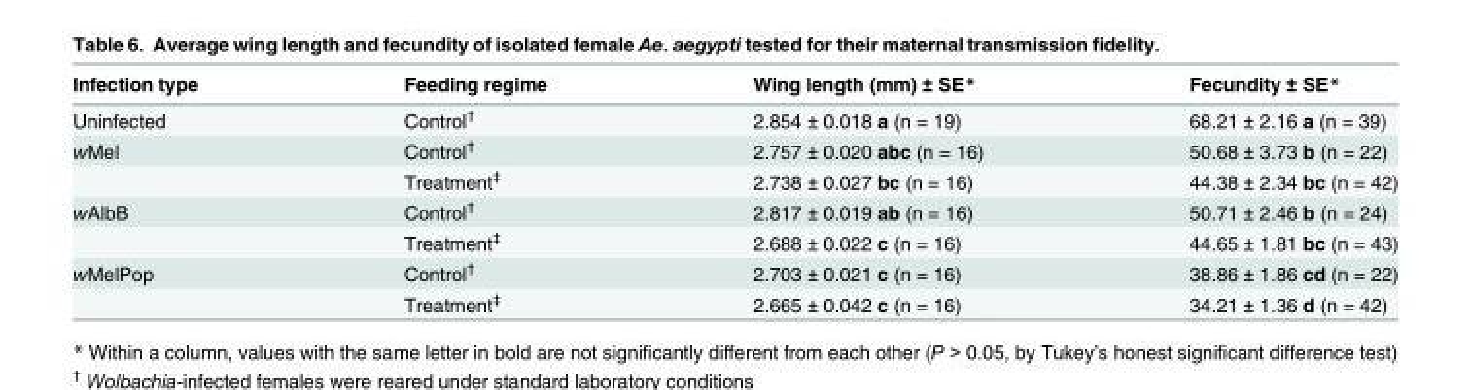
<table><thead><tr><td>Infection type</td><td>Feeding regime</td><td>Wing length (mm) ± SE*</td><td>Fecundity ± SE*</td></tr></thead><tbody><tr><td>Uninfected</td><td>Control<sup>†</sup></td><td>2.854 ± 0.018 a (n = 19)</td><td>68.21 ± 2.16 a (n = 39)</td></tr><tr><td rowspan="2">wMel</td><td>Control<sup>†</sup></td><td>2.757 ± 0.020 abc (n = 16)</td><td>50.68 ± 3.73 b (n = 22)</td></tr><tr><td>Treatment<sup>‡</sup></td><td>2.738 ± 0.027 bc (n = 16)</td><td>44.38 ± 2.34 bc (n = 42)</td></tr><tr><td rowspan="2">wAlbB</td><td>Control<sup>†</sup></td><td>2.817 ± 0.019 ab (n = 16)</td><td>50.71 ± 2.46 b (n = 24)</td></tr><tr><td>Treatment<sup>‡</sup></td><td>2.688 ± 0.022 c (n = 16)</td><td>44.65 ± 1.81 bc (n = 43)</td></tr><tr><td rowspan="2">wMelPop</td><td>Control<sup>†</sup></td><td>2.703 ± 0.021 c (n = 16)</td><td>38.86 ± 1.86 cd (n = 22)</td></tr><tr><td>Treatment<sup>‡</sup></td><td>2.665 ± 0.042 c (n = 16)</td><td>34.21 ± 1.36 d (n = 42)</td></tr></tbody></table>